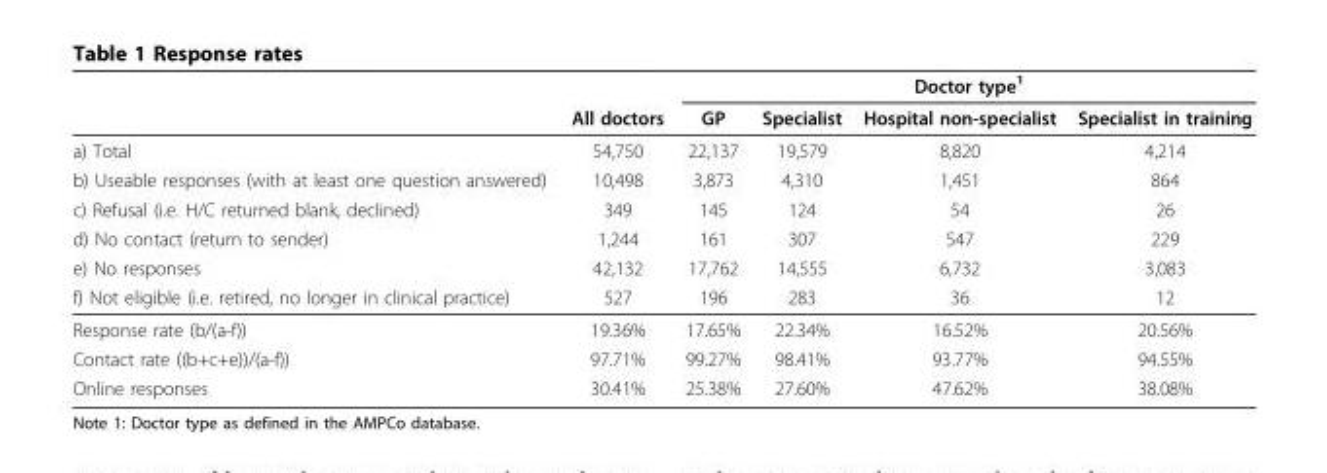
<table><thead><tr><td rowspan="2"></td><td rowspan="2">All doctors</td><td colspan="4">Doctor type<sup>1</sup></td></tr><tr><td>GP</td><td>Specialist</td><td>Hospital non-specialist</td><td>Specialist in training</td></tr></thead><tbody><tr><td>a) Total</td><td>54,750</td><td>22,137</td><td>19,579</td><td>8,820</td><td>4,214</td></tr><tr><td>b) Useable responses (with at least one question answered)</td><td>10,498</td><td>3,873</td><td>4,310</td><td>1,451</td><td>864</td></tr><tr><td>c) Refusal (i.e. H/C returned blank, declined)</td><td>349</td><td>145</td><td>124</td><td>54</td><td>26</td></tr><tr><td>d) No contact (return to sender)</td><td>1,244</td><td>161</td><td>307</td><td>547</td><td>229</td></tr><tr><td>e) No responses</td><td>42,132</td><td>17,762</td><td>14,555</td><td>6,732</td><td>3,083</td></tr><tr><td>f) Not eligible (i.e. retired, no longer in clinical practice)</td><td>527</td><td>196</td><td>283</td><td>36</td><td>12</td></tr><tr><td>Response rate (b/(a-f))</td><td>19.36%</td><td>17.65%</td><td>22.34%</td><td>16.52%</td><td>20.56%</td></tr><tr><td>Contact rate ((b+c+e))/(a-f))</td><td>97.71%</td><td>99.27%</td><td>98.41%</td><td>93.77%</td><td>94.55%</td></tr><tr><td>Online responses</td><td>30.41%</td><td>25.38%</td><td>27.60%</td><td>47.62%</td><td>38.08%</td></tr></tbody></table>